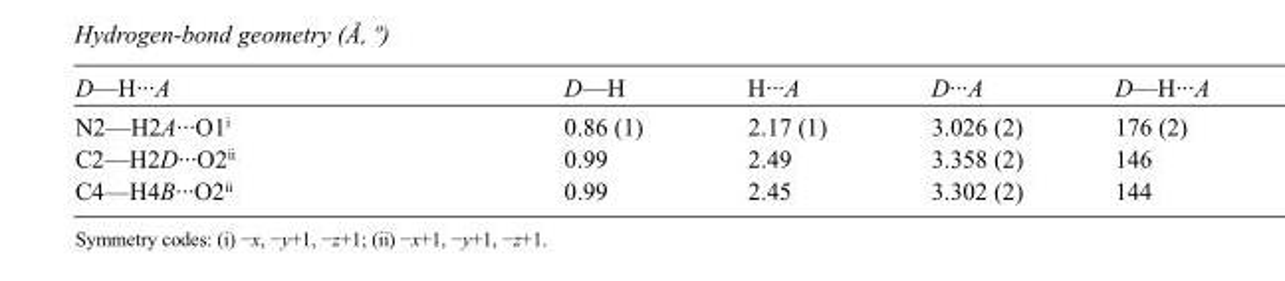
<table><tbody><tr><td>D—H···A</td><td>D—H</td><td>H···A</td><td>D···A</td><td>D—H···A</td></tr><tr><td>N2—H2A···O1<sup>i</sup></td><td>0.86 (1)</td><td>2.17 (1)</td><td>3.026 (2)</td><td>176 (2)</td></tr><tr><td>C2—H2D···O2<sup>ii</sup></td><td>0.99</td><td>2.49</td><td>3.358 (2)</td><td>146</td></tr><tr><td>C4—H4B···O2<sup>ii</sup></td><td>0.99</td><td>2.45</td><td>3.302 (2)</td><td>144</td></tr></tbody></table>